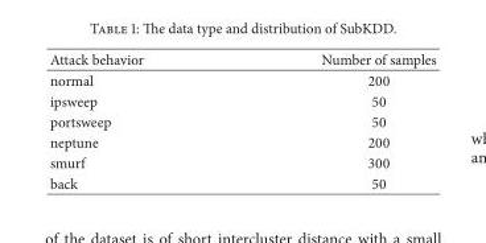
<table><thead><tr><td>Attack behavior</td><td>Number of samples</td></tr></thead><tbody><tr><td>normal</td><td>200</td></tr><tr><td>ipsweep</td><td>50</td></tr><tr><td>portsweep</td><td>50</td></tr><tr><td>neptune</td><td>200</td></tr><tr><td>smurf</td><td>300</td></tr><tr><td>back</td><td>50</td></tr></tbody></table>